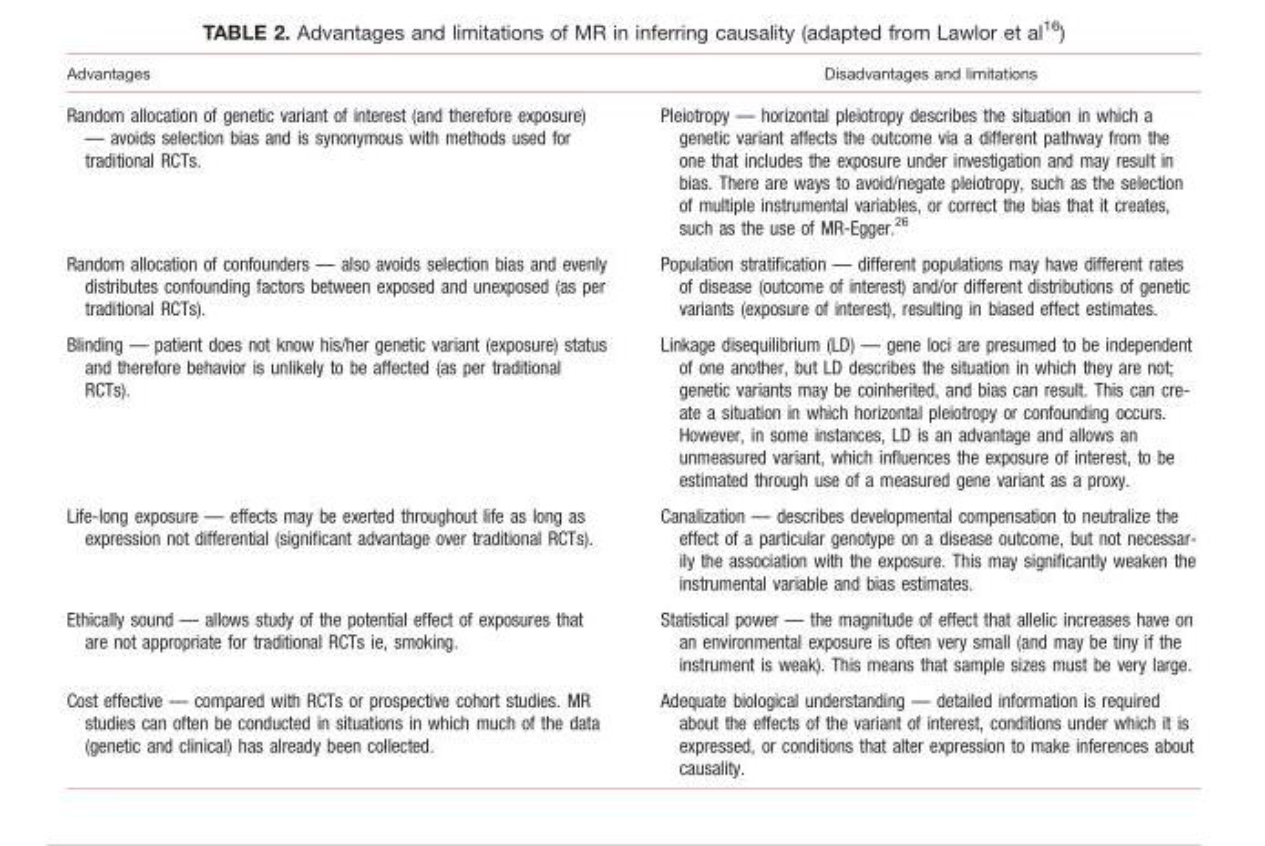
<table><thead><tr><td>Advantages</td><td>Disadvantages and limitations</td></tr></thead><tbody><tr><td>Random allocation of genetic variant of interest (and therefore exposure) — avoids selection bias and is synonymous with methods used for traditional RCTs.</td><td>Pleiotropy — horizontal pleiotropy describes the situation in which a genetic variant affects the outcome via a different pathway from the one that includes the exposure under investigation and may result in bias. There are ways to avoid/negate pleiotropy, such as the selection of multiple instrumental variables, or correct the bias that it creates, such as the use of MR-Egger.<sup>26</sup></td></tr><tr><td>Random allocation of confounders — also avoids selection bias and evenly distributes confounding factors between exposed and unexposed (as per traditional RCTs).</td><td>Population stratification — different populations may have different rates of disease (outcome of interest) and/or different distributions of genetic variants (exposure of interest), resulting in biased effect estimates.</td></tr><tr><td>Blinding — patient does not know his/her genetic variant (exposure) status and therefore behavior is unlikely to be affected (as per traditional RCTs).</td><td>Linkage disequilibrium (LD) — gene loci are presumed to be independent of one another, but LD describes the situation in which they are not; genetic variants may be coinherited, and bias can result. This can cre- ate a situation in which horizontal pleiotropy or confounding occurs. However, in some instances, LD is an advantage and allows an unmeasured variant, which influences the exposure of interest, to be estimated through use of a measured gene variant as a proxy.</td></tr><tr><td>Life-long exposure — effects may be exerted throughout life as long as expression not differential (significant advantage over traditional RCTs).</td><td>Canalization — describes developmental compensation to neutralize the effect of a particular genotype on a disease outcome, but not necessar- ily the association with the exposure. This may significantly weaken the instrumental variable and bias estimates.</td></tr><tr><td>Ethically sound — allows study of the potential effect of exposures that are not appropriate for traditional RCTs ie, smoking.</td><td>Statistical power — the magnitude of effect that allelic increases have on an environmental exposure is often very small (and may be tiny if the instrument is weak). This means that sample sizes must be very large.</td></tr><tr><td>Cost effective — compared with RCTs or prospective cohort studies. MR studies can often be conducted in situations in which much of the data (genetic and clinical) has already been collected.</td><td>Adequate biological understanding — detailed information is required about the effects of the variant of interest, conditions under which it is expressed, or conditions that alter expression to make inferences about causality.</td></tr></tbody></table>